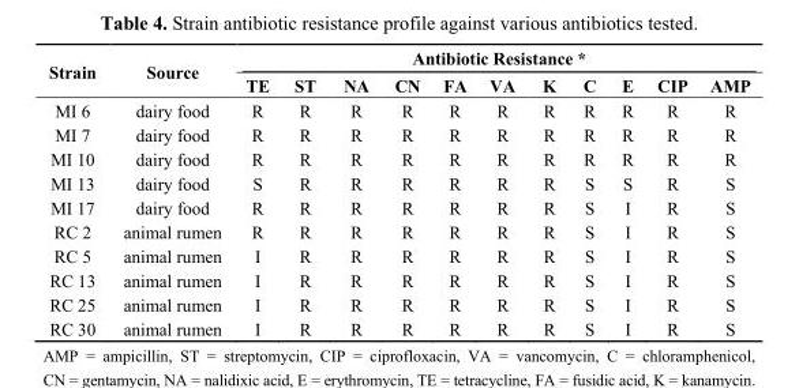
<table><thead><tr><td rowspan="2">Strain</td><td rowspan="2">Source</td><td colspan="11">Antibiotic Resistance *</td></tr><tr><td>TE</td><td>ST</td><td>NA</td><td>CN</td><td>FA</td><td>VA</td><td>K</td><td>C</td><td>E</td><td>CIP</td><td>AMP</td></tr></thead><tbody><tr><td>MI 6</td><td>dairy food</td><td>R</td><td>R</td><td>R</td><td>R</td><td>R</td><td>R</td><td>R</td><td>R</td><td>R</td><td>R</td><td>R</td></tr><tr><td>MI 7</td><td>dairy food</td><td>R</td><td>R</td><td>R</td><td>R</td><td>R</td><td>R</td><td>R</td><td>R</td><td>R</td><td>R</td><td>R</td></tr><tr><td>MI 10</td><td>dairy food</td><td>R</td><td>R</td><td>R</td><td>R</td><td>R</td><td>R</td><td>R</td><td>R</td><td>R</td><td>R</td><td>R</td></tr><tr><td>MI 13</td><td>dairy food</td><td>S</td><td>R</td><td>R</td><td>R</td><td>R</td><td>R</td><td>R</td><td>S</td><td>S</td><td>R</td><td>S</td></tr><tr><td>MI 17</td><td>dairy food</td><td>R</td><td>R</td><td>R</td><td>R</td><td>R</td><td>R</td><td>R</td><td>S</td><td>I</td><td>R</td><td>S</td></tr><tr><td>RC 2</td><td>animal rumen</td><td>R</td><td>R</td><td>R</td><td>R</td><td>R</td><td>R</td><td>R</td><td>S</td><td>I</td><td>R</td><td>S</td></tr><tr><td>RC 5</td><td>animal rumen</td><td>I</td><td>R</td><td>R</td><td>R</td><td>R</td><td>R</td><td>R</td><td>S</td><td>I</td><td>R</td><td>S</td></tr><tr><td>RC 13</td><td>animal rumen</td><td>I</td><td>R</td><td>R</td><td>R</td><td>R</td><td>R</td><td>R</td><td>S</td><td>I</td><td>R</td><td>S</td></tr><tr><td>RC 25</td><td>animal rumen</td><td>I</td><td>R</td><td>R</td><td>R</td><td>R</td><td>R</td><td>R</td><td>S</td><td>I</td><td>R</td><td>S</td></tr><tr><td>RC 30</td><td>animal rumen</td><td>I</td><td>R</td><td>R</td><td>R</td><td>R</td><td>R</td><td>R</td><td>S</td><td>I</td><td>R</td><td>S</td></tr></tbody></table>